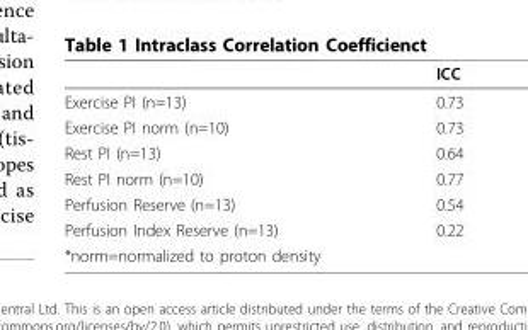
<table><thead><tr><td></td><td>ICC</td></tr></thead><tbody><tr><td>Exercise PI (n=13)</td><td>0.73</td></tr><tr><td>Exercise PI norm (n=10)</td><td>0.73</td></tr><tr><td>Rest PI (n=13)</td><td>0.64</td></tr><tr><td>Rest PI norm (n=10)</td><td>0.77</td></tr><tr><td>Perfusion Reserve (n=13)</td><td>0.54</td></tr><tr><td>Perfusion Index Reserve (n=13)</td><td>0.22</td></tr><tr><td>*norm=normalized to proton density</td><td></td></tr></tbody></table>